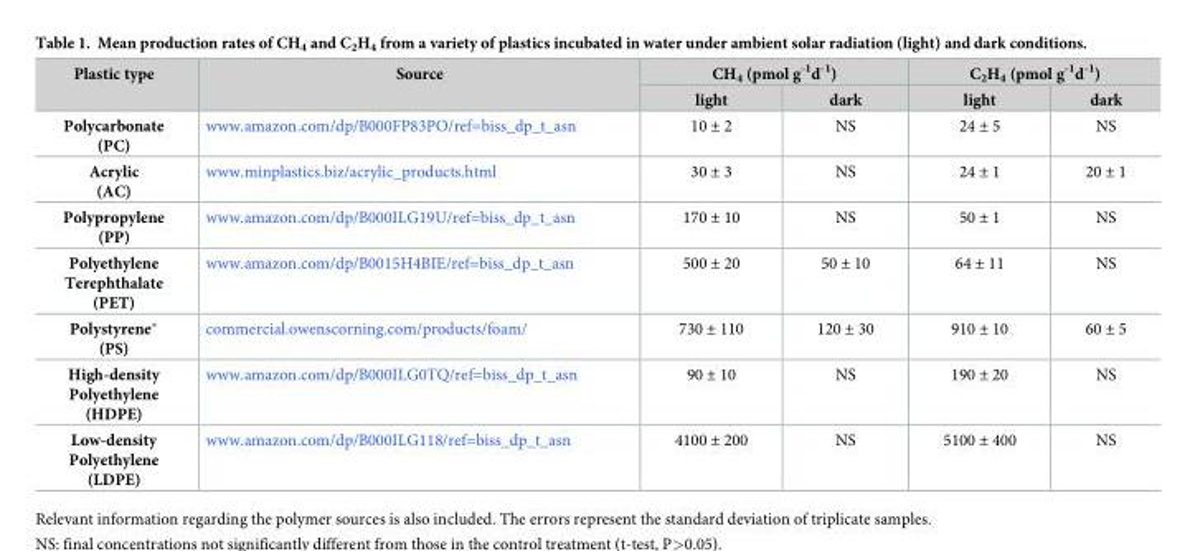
<table><thead><tr><td rowspan="2">Plastic type</td><td rowspan="2">Source</td><td colspan="2">CH<sub>4</sub> (pmol g<sup>-1</sup>d<sup>-1</sup>)</td><td colspan="2">C<sub>2</sub>H<sub>4</sub> (pmol g<sup>-1</sup>d<sup>-1</sup>)</td></tr><tr><td>light</td><td>dark</td><td>light</td><td>dark</td></tr></thead><tbody><tr><td>Polycarbonate (PC)</td><td>www.amazon.com/dp/B000FP83PO/ref=biss_dp_t_asn</td><td>10 ± 2</td><td>NS</td><td>24 ± 5</td><td>NS</td></tr><tr><td>Acrylic (AC)</td><td>www.minplastics.biz/acrylic_products.html</td><td>30 ± 3</td><td>NS</td><td>24 ± 1</td><td>20 ± 1</td></tr><tr><td>Polypropylene (PP)</td><td>www.amazon.com/dp/B000ILG19U/ref=biss_dp_t_asn</td><td>170 ± 10</td><td>NS</td><td>50 ± 1</td><td>NS</td></tr><tr><td>Polyethylene Terephthalate (PET)</td><td>www.amazon.com/dp/B0015H4BIE/ref=biss_dp_t_asn</td><td>500 ± 20</td><td>50 ± 10</td><td>64 ± 11</td><td>NS</td></tr><tr><td>Polystyrene* (PS)</td><td>commercial.owenscorning.com/products/foam/</td><td>730 ± 110</td><td>120 ± 30</td><td>910 ± 10</td><td>60 ± 5</td></tr><tr><td>High-density Polyethylene (HDPE)</td><td>www.amazon.com/dp/B000ILG0TQ/ref=biss_dp_t_asn</td><td>90 ± 10</td><td>NS</td><td>190 ± 20</td><td>NS</td></tr><tr><td>Low-density Polyethylene (LDPE)</td><td>www.amazon.com/dp/B000ILG118/ref=biss_dp_t_asn</td><td>4100 ± 200</td><td>NS</td><td>5100 ± 400</td><td>NS</td></tr></tbody></table>